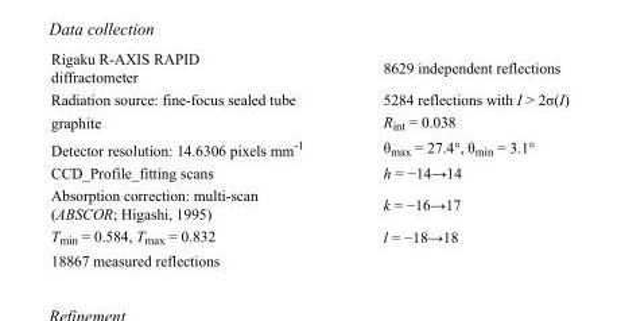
<table><tbody><tr><td>Rigaku R-AXIS RAPID diffractometer</td><td>8629 independent reflections</td></tr><tr><td>Radiation source: fine-focus sealed tube</td><td>5284 reflections with I &gt; 2σ(I)</td></tr><tr><td>graphite</td><td>R<sub>int</sub> = 0.038</td></tr><tr><td>Detector resolution: 14.6306 pixels mm<sup>-1</sup></td><td>θ<sub>max</sub> = 27.4°, θ<sub>min</sub> = 3.1°</td></tr><tr><td>CCD_Profile_fitting scans</td><td>h = −14→14</td></tr><tr><td>Absorption correction: multi-scan (ABSCOR; Higashi, 1995)</td><td>k = −16→17</td></tr><tr><td>T<sub>min</sub> = 0.584, T<sub>max</sub> = 0.832</td><td>l = −18→18</td></tr><tr><td>18867 measured reflections</td><td></td></tr></tbody></table>